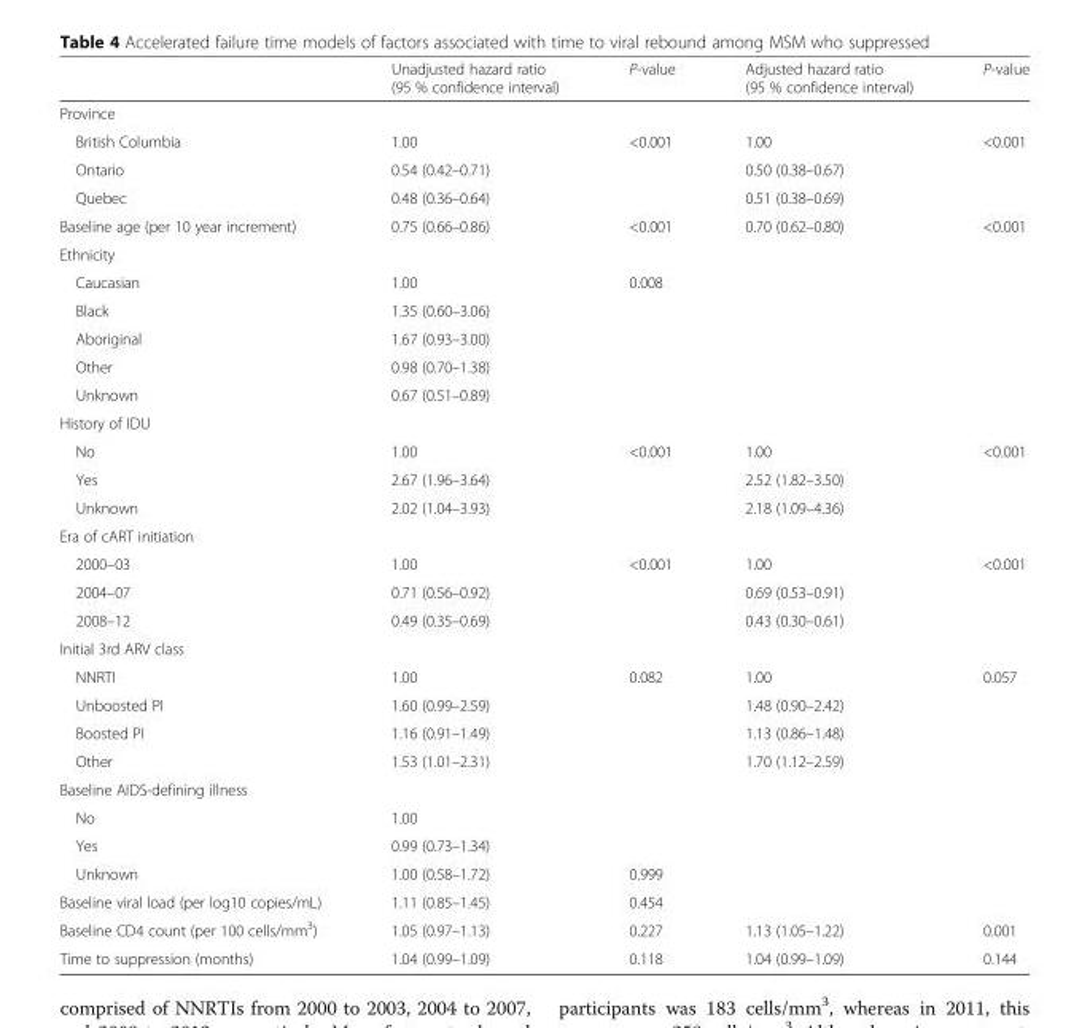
<table><thead><tr><td></td><td>Unadjusted hazard ratio (95 % confidence interval)</td><td>P-value</td><td>Adjusted hazard ratio (95 % confidence interval)</td><td>P-value</td></tr></thead><tbody><tr><td colspan="5">Province</td></tr><tr><td>British Columbia</td><td>1.00</td><td rowspan="3">&lt;0.001</td><td>1.00</td><td rowspan="3">&lt;0.001</td></tr><tr><td>Ontario</td><td>0.54 (0.42–0.71)</td><td>0.50 (0.38–0.67)</td></tr><tr><td>Quebec</td><td>0.48 (0.36–0.64)</td><td>0.51 (0.38–0.69)</td></tr><tr><td>Baseline age (per 10 year increment)</td><td>0.75 (0.66–0.86)</td><td>&lt;0.001</td><td>0.70 (0.62–0.80)</td><td>&lt;0.001</td></tr><tr><td colspan="5">Ethnicity</td></tr><tr><td>Caucasian</td><td>1.00</td><td rowspan="5">0.008</td><td rowspan="5"></td><td rowspan="5"></td></tr><tr><td>Black</td><td>1.35 (0.60–3.06)</td></tr><tr><td>Aboriginal</td><td>1.67 (0.93–3.00)</td></tr><tr><td>Other</td><td>0.98 (0.70–1.38)</td></tr><tr><td>Unknown</td><td>0.67 (0.51–0.89)</td></tr><tr><td colspan="5">History of IDU</td></tr><tr><td>No</td><td>1.00</td><td rowspan="3">&lt;0.001</td><td>1.00</td><td rowspan="3">&lt;0.001</td></tr><tr><td>Yes</td><td>2.67 (1.96–3.64)</td><td>2.52 (1.82–3.50)</td></tr><tr><td>Unknown</td><td>2.02 (1.04–3.93)</td><td>2.18 (1.09–4.36)</td></tr><tr><td colspan="5">Era of cART initiation</td></tr><tr><td>2000–03</td><td>1.00</td><td rowspan="3">&lt;0.001</td><td>1.00</td><td rowspan="3">&lt;0.001</td></tr><tr><td>2004–07</td><td>0.71 (0.56–0.92)</td><td>0.69 (0.53–0.91)</td></tr><tr><td>2008–12</td><td>0.49 (0.35–0.69)</td><td>0.43 (0.30–0.61)</td></tr><tr><td colspan="5">Initial 3rd ARV class</td></tr><tr><td>NNRTI</td><td>1.00</td><td rowspan="4">0.082</td><td>1.00</td><td rowspan="4">0.057</td></tr><tr><td>Unboosted PI</td><td>1.60 (0.99–2.59)</td><td>1.48 (0.90–2.42)</td></tr><tr><td>Boosted PI</td><td>1.16 (0.91–1.49)</td><td>1.13 (0.86–1.48)</td></tr><tr><td>Other</td><td>1.53 (1.01–2.31)</td><td>1.70 (1.12–2.59)</td></tr><tr><td colspan="5">Baseline AIDS-defining illness</td></tr><tr><td>No</td><td>1.00</td><td></td><td rowspan="3"></td><td rowspan="3"></td></tr><tr><td>Yes</td><td>0.99 (0.73–1.34)</td><td></td></tr><tr><td>Unknown</td><td>1.00 (0.58–1.72)</td><td>0.999</td></tr><tr><td>Baseline viral load (per log10 copies/mL)</td><td>1.11 (0.85–1.45)</td><td>0.454</td><td></td><td></td></tr><tr><td>Baseline CD4 count (per 100 cells/mm<sup>3</sup>)</td><td>1.05 (0.97–1.13)</td><td>0.227</td><td>1.13 (1.05–1.22)</td><td>0.001</td></tr><tr><td>Time to suppression (months)</td><td>1.04 (0.99–1.09)</td><td>0.118</td><td>1.04 (0.99–1.09)</td><td>0.144</td></tr></tbody></table>